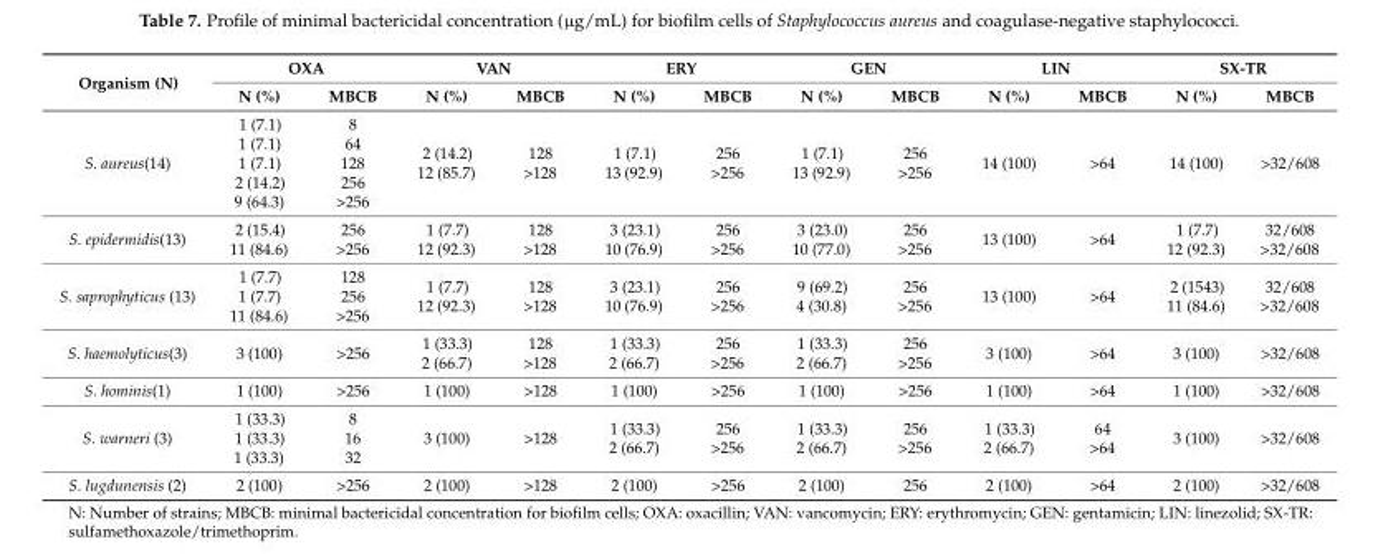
<table><thead><tr><td rowspan="2">Organism (N)</td><td colspan="2">OXA</td><td colspan="2">VAN</td><td colspan="2">ERY</td><td colspan="2">GEN</td><td colspan="2">LIN</td><td colspan="2">SX-TR</td></tr><tr><td>N (%)</td><td>MBCB</td><td>N (%)</td><td>MBCB</td><td>N (%)</td><td>MBCB</td><td>N (%)</td><td>MBCB</td><td>N (%)</td><td>MBCB</td><td>N (%)</td><td>MBCB</td></tr></thead><tbody><tr><td>S. aureus(14)</td><td>1 (7.1) 1 (7.1) 1 (7.1) 2 (14.2) 9 (64.3)</td><td>8 64 128 256 &gt;256</td><td>2 (14.2) 12 (85.7)</td><td>128 &gt;128</td><td>1 (7.1) 13 (92.9)</td><td>256 &gt;256</td><td>1 (7.1) 13 (92.9)</td><td>256 &gt;256</td><td>14 (100)</td><td>&gt;64</td><td>14 (100)</td><td>&gt;32/608</td></tr><tr><td>S. epidermidis(13)</td><td>2 (15.4) 11 (84.6)</td><td>256 &gt;256</td><td>1 (7.7) 12 (92.3)</td><td>128 &gt;128</td><td>3 (23.1) 10 (76.9)</td><td>256 &gt;256</td><td>3 (23.0) 10 (77.0)</td><td>256 &gt;256</td><td>13 (100)</td><td>&gt;64</td><td>1 (7.7) 12 (92.3)</td><td>32/608 &gt;32/608</td></tr><tr><td>S. saprophyticus (13)</td><td>1 (7.7) 1 (7.7) 11 (84.6)</td><td>128 256 &gt;256</td><td>1 (7.7) 12 (92.3)</td><td>128 &gt;128</td><td>3 (23.1) 10 (76.9)</td><td>256 &gt;256</td><td>9 (69.2) 4 (30.8)</td><td>256 &gt;256</td><td>13 (100)</td><td>&gt;64</td><td>2 (1543) 11 (84.6)</td><td>32/608 &gt;32/608</td></tr><tr><td>S. haemolyticus(3)</td><td>3 (100)</td><td>&gt;256</td><td>1 (33.3) 2 (66.7)</td><td>128 &gt;128</td><td>1 (33.3) 2 (66.7)</td><td>256 &gt;256</td><td>1 (33.3) 2 (66.7)</td><td>256 &gt;256</td><td>3 (100)</td><td>&gt;64</td><td>3 (100)</td><td>&gt;32/608</td></tr><tr><td>S. hominis(1)</td><td>1 (100)</td><td>&gt;256</td><td>1 (100)</td><td>&gt;128</td><td>1 (100)</td><td>&gt;256</td><td>1 (100)</td><td>&gt;256</td><td>1 (100)</td><td>&gt;64</td><td>1 (100)</td><td>&gt;32/608</td></tr><tr><td>S. warneri (3)</td><td>1 (33.3) 1 (33.3) 1 (33.3)</td><td>8 16 32</td><td>3 (100)</td><td>&gt;128</td><td>1 (33.3) 2 (66.7)</td><td>256 &gt;256</td><td>1 (33.3) 2 (66.7)</td><td>256 &gt;256</td><td>1 (33.3) 2 (66.7)</td><td>64 &gt;64</td><td>3 (100)</td><td>&gt;32/608</td></tr><tr><td>S. lugdunensis (2)</td><td>2 (100)</td><td>&gt;256</td><td>2 (100)</td><td>&gt;128</td><td>2 (100)</td><td>&gt;256</td><td>2 (100)</td><td>256</td><td>2 (100)</td><td>&gt;64</td><td>2 (100)</td><td>&gt;32/608</td></tr></tbody></table>